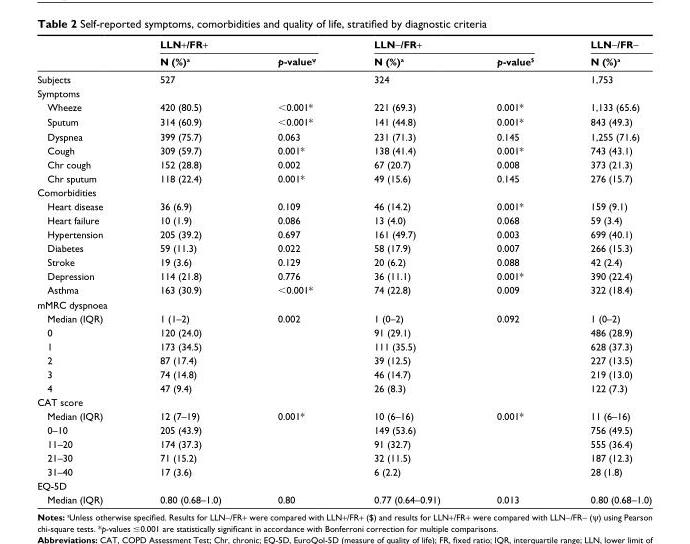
<table><thead><tr><td rowspan="2"></td><td colspan="2">LLN+/FR+</td><td colspan="2">LLN−/FR+</td><td rowspan="2">LLN−/FR− N (%)<sup>a</sup></td></tr><tr><td>N (%)<sup>a</sup></td><td>p-value<sup>ψ</sup></td><td>N (%)<sup>a</sup></td><td>p-value<sup>$</sup></td></tr></thead><tbody><tr><td>subjects</td><td>527</td><td></td><td>324</td><td></td><td>1,753</td></tr><tr><td colspan="6">symptoms</td></tr><tr><td>Wheeze</td><td>420 (80.5)</td><td>&lt;0.001*</td><td>221 (69.3)</td><td>0.001*</td><td>1,133 (65.6)</td></tr><tr><td>sputum</td><td>314 (60.9)</td><td>&lt;0.001*</td><td>141 (44.8)</td><td>0.001*</td><td>843 (49.3)</td></tr><tr><td>Dyspnea</td><td>399 (75.7)</td><td>0.063</td><td>231 (71.3)</td><td>0.145</td><td>1,255 (71.6)</td></tr><tr><td>Cough</td><td>309 (59.7)</td><td>0.001*</td><td>138 (41.4)</td><td>0.001*</td><td>743 (43.1)</td></tr><tr><td>Chr cough</td><td>152 (28.8)</td><td>0.002</td><td>67 (20.7)</td><td>0.008</td><td>373 (21.3)</td></tr><tr><td>Chr sputum</td><td>118 (22.4)</td><td>0.001*</td><td>49 (15.6)</td><td>0.145</td><td>276 (15.7)</td></tr><tr><td colspan="6">Comorbidities</td></tr><tr><td>heart disease</td><td>36 (6.9)</td><td>0.109</td><td>46 (14.2)</td><td>0.001*</td><td>159 (9.1)</td></tr><tr><td>heart failure</td><td>10 (1.9)</td><td>0.086</td><td>13 (4.0)</td><td>0.068</td><td>59 (3.4)</td></tr><tr><td>hypertension</td><td>205 (39.2)</td><td>0.697</td><td>161 (49.7)</td><td>0.003</td><td>699 (40.1)</td></tr><tr><td>Diabetes</td><td>59 (11.3)</td><td>0.022</td><td>58 (17.9)</td><td>0.007</td><td>266 (15.3)</td></tr><tr><td>stroke</td><td>19 (3.6)</td><td>0.129</td><td>20 (6.2)</td><td>0.088</td><td>42 (2.4)</td></tr><tr><td>Depression</td><td>114 (21.8)</td><td>0.776</td><td>36 (11.1)</td><td>0.001*</td><td>390 (22.4)</td></tr><tr><td>asthma</td><td>163 (30.9)</td><td>&lt;0.001*</td><td>74 (22.8)</td><td>0.009</td><td>322 (18.4)</td></tr><tr><td colspan="6">mMrC dyspnoea</td></tr><tr><td>Median (IQR)</td><td>1 (1–2)</td><td>0.002</td><td>1 (0–2)</td><td>0.092</td><td>1 (0–2)</td></tr><tr><td>0</td><td>120 (24.0)</td><td></td><td>91 (29.1)</td><td></td><td>486 (28.9)</td></tr><tr><td>1</td><td>173 (34.5)</td><td></td><td>111 (35.5)</td><td></td><td>628 (37.3)</td></tr><tr><td>2</td><td>87 (17.4)</td><td></td><td>39 (12.5)</td><td></td><td>227 (13.5)</td></tr><tr><td>3</td><td>74 (14.8)</td><td></td><td>46 (14.7)</td><td></td><td>219 (13.0)</td></tr><tr><td>4</td><td>47 (9.4)</td><td></td><td>26 (8.3)</td><td></td><td>122 (7.3)</td></tr><tr><td colspan="6">CaT score</td></tr><tr><td>Median (IQR)</td><td>12 (7–19)</td><td>0.001*</td><td>10 (6–16)</td><td>0.001*</td><td>11 (6–16)</td></tr><tr><td>0–10</td><td>205 (43.9)</td><td></td><td>149 (53.6)</td><td></td><td>756 (49.5)</td></tr><tr><td>11–20</td><td>174 (37.3)</td><td></td><td>91 (32.7)</td><td></td><td>555 (36.4)</td></tr><tr><td>21–30</td><td>71 (15.2)</td><td></td><td>32 (11.5)</td><td></td><td>187 (12.3)</td></tr><tr><td>31–40</td><td>17 (3.6)</td><td></td><td>6 (2.2)</td><td></td><td>28 (1.8)</td></tr><tr><td colspan="6">EQ-5D</td></tr><tr><td>Median (IQR)</td><td>0.80 (0.68–1.0)</td><td>0.80</td><td>0.77 (0.64–0.91)</td><td>0.013</td><td>0.80 (0.68–1.0)</td></tr></tbody></table>